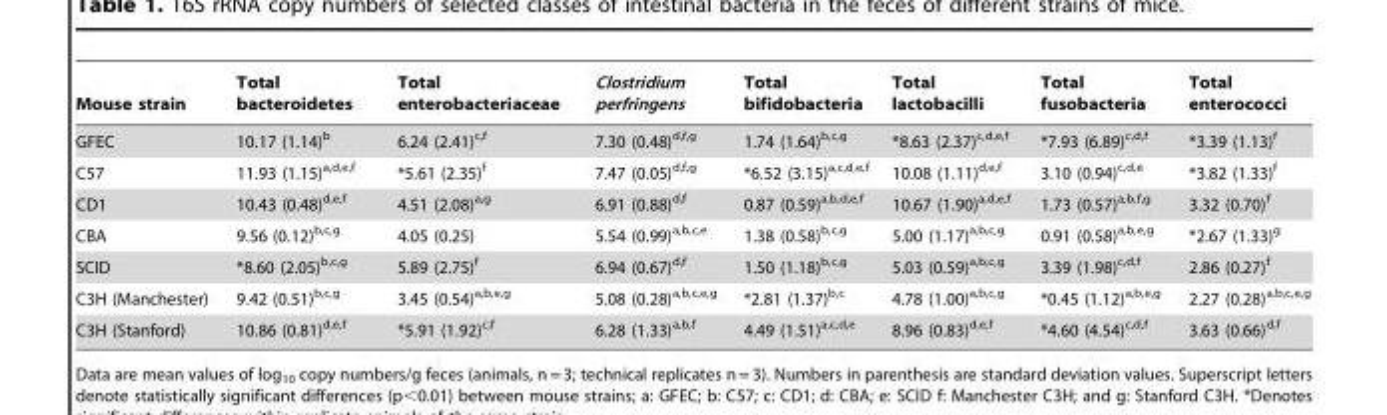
<table><thead><tr><td>Mouse strain</td><td>Total bacteroidetes</td><td>Total enterobacteriaceae</td><td>Clostridium perfringens</td><td>Total bifidobacteria</td><td>Total lactobacilli</td><td>Total fusobacteria</td><td>Total enterococci</td></tr></thead><tbody><tr><td>GFEC</td><td>10.17 (1.14)<sup>b</sup></td><td>6.24 (2.41)<sup>c,f</sup></td><td>7.30 (0.48)<sup>d,f,g</sup></td><td>1.74 (1.64)<sup>b,c,g</sup></td><td>*8.63 (2.37)<sup>c,d,e,f</sup></td><td>*7.93 (6.89)<sup>c,d,f</sup></td><td>*3.39 (1.13)<sup>f</sup></td></tr><tr><td>C57</td><td>11.93 (1.15)<sup>a,d,e,f</sup></td><td>*5.61 (2.35)<sup>f</sup></td><td>7.47 (0.05)<sup>d,f,g</sup></td><td>*6.52 (3.15)<sup>a,c,d,e,f</sup></td><td>10.08 (1.11)<sup>d,e,f</sup></td><td>3.10 (0.94)<sup>c,d,e</sup></td><td>*3.82 (1.33)<sup>f</sup></td></tr><tr><td>CD1</td><td>10.43 (0.48)<sup>d,e,f</sup></td><td>4.51 (2.08)<sup>a,g</sup></td><td>6.91 (0.88)<sup>d,f</sup></td><td>0.87 (0.59)<sup>a,b,d,e,f</sup></td><td>10.67 (1.90)<sup>a,d,e,f</sup></td><td>1.73 (0.57)<sup>a,b,f,g</sup></td><td>3.32 (0.70)<sup>f</sup></td></tr><tr><td>CBA</td><td>9.56 (0.12)<sup>b,c,g</sup></td><td>4.05 (0.25)</td><td>5.54 (0.99)<sup>a,b,c,e</sup></td><td>1.38 (0.58)<sup>b,c,g</sup></td><td>5.00 (1.17)<sup>a,b,c,g</sup></td><td>0.91 (0.58)<sup>a,b,e,g</sup></td><td>*2.67 (1.33)<sup>g</sup></td></tr><tr><td>SCID</td><td>*8.60 (2.05)<sup>b,c,g</sup></td><td>5.89 (2.75)<sup>f</sup></td><td>6.94 (0.67)<sup>d,f</sup></td><td>1.50 (1.18)<sup>b,c,g</sup></td><td>5.03 (0.59)<sup>a,b,c,g</sup></td><td>3.39 (1.98)<sup>c,d,f</sup></td><td>2.86 (0.27)<sup>f</sup></td></tr><tr><td>C3H (Manchester)</td><td>9.42 (0.51)<sup>b,c,g</sup></td><td>3.45 (0.54)<sup>a,b,e,g</sup></td><td>5.08 (0.28)<sup>a,b,c,e,g</sup></td><td>*2.81 (1.37)<sup>b,c</sup></td><td>4.78 (1.00)<sup>a,b,c,g</sup></td><td>*0.45 (1.12)<sup>a,b,e,g</sup></td><td>2.27 (0.28)<sup>a,b,c,e,g</sup></td></tr><tr><td>C3H (Stanford)</td><td>10.86 (0.81)<sup>d,e,f</sup></td><td>*5.91 (1.92)<sup>c,f</sup></td><td>6.28 (1.33)<sup>a,b,f</sup></td><td>4.49 (1.51)<sup>a,c,d,e</sup></td><td>8.96 (0.83)<sup>d,e,f</sup></td><td>*4.60 (4.54)<sup>c,d,f</sup></td><td>3.63 (0.66)<sup>d,f</sup></td></tr></tbody></table>